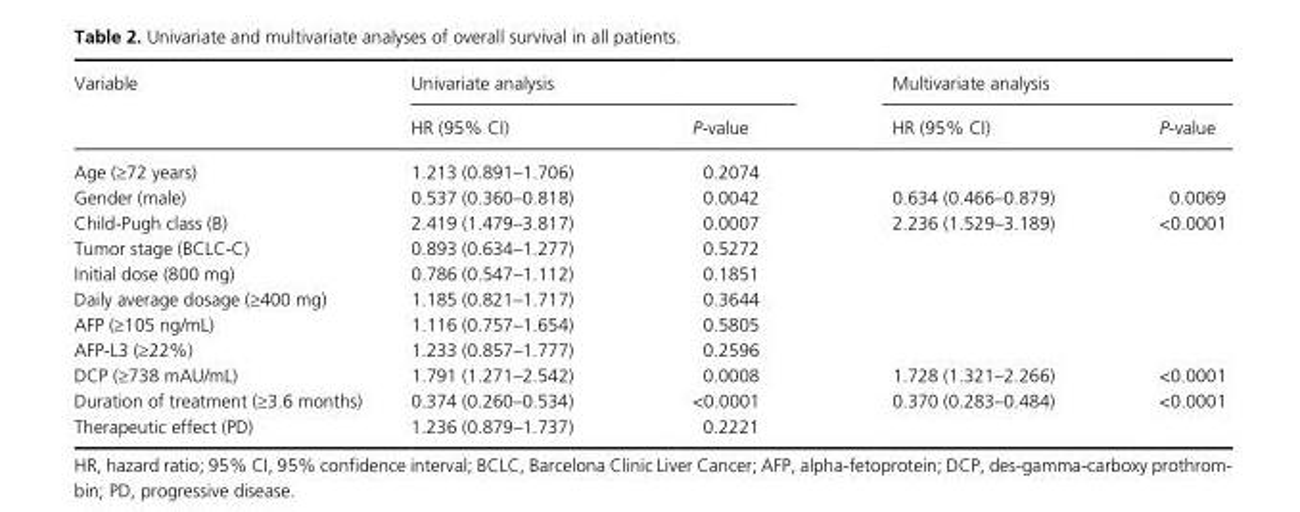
<table><thead><tr><td rowspan="2">Variable</td><td colspan="2">Univariate analysis</td><td colspan="2">Multivariate analysis</td></tr><tr><td>HR (95% CI)</td><td>P- value</td><td>HR (95% CI)</td><td>P- value</td></tr></thead><tbody><tr><td>Age (≥72 years)</td><td>1.213 (0.891–1.706)</td><td>0.2074</td><td></td><td></td></tr><tr><td>Gender (male)</td><td>0.537 (0.360–0.818)</td><td>0.0042</td><td>0.634 (0.466–0.879)</td><td>0.0069</td></tr><tr><td>Child- Pugh class (B)</td><td>2.419 (1.479–3.817)</td><td>0.0007</td><td>2.236 (1.529–3.189)</td><td>&lt;0.0001</td></tr><tr><td>Tumor stage (BCLC- C)</td><td>0.893 (0.634–1.277)</td><td>0.5272</td><td></td><td></td></tr><tr><td>Initial dose (800 mg)</td><td>0.786 (0.547–1.112)</td><td>0.1851</td><td></td><td></td></tr><tr><td>Daily average dosage (≥400 mg)</td><td>1.185 (0.821–1.717)</td><td>0.3644</td><td></td><td></td></tr><tr><td>AFP (≥105 ng/mL)</td><td>1.116 (0.757–1.654)</td><td>0.5805</td><td></td><td></td></tr><tr><td>AFP- L3 (≥22%)</td><td>1.233 (0.857–1.777)</td><td>0.2596</td><td></td><td></td></tr><tr><td>DCP (≥738 mAU/mL)</td><td>1.791 (1.271–2.542)</td><td>0.0008</td><td>1.728 (1.321–2.266)</td><td>&lt;0.0001</td></tr><tr><td>Duration of treatment (≥3.6 months)</td><td>0.374 (0.260–0.534)</td><td>&lt;0.0001</td><td>0.370 (0.283–0.484)</td><td>&lt;0.0001</td></tr><tr><td>Therapeutic effect (PD)</td><td>1.236 (0.879–1.737)</td><td>0.2221</td><td></td><td></td></tr></tbody></table>